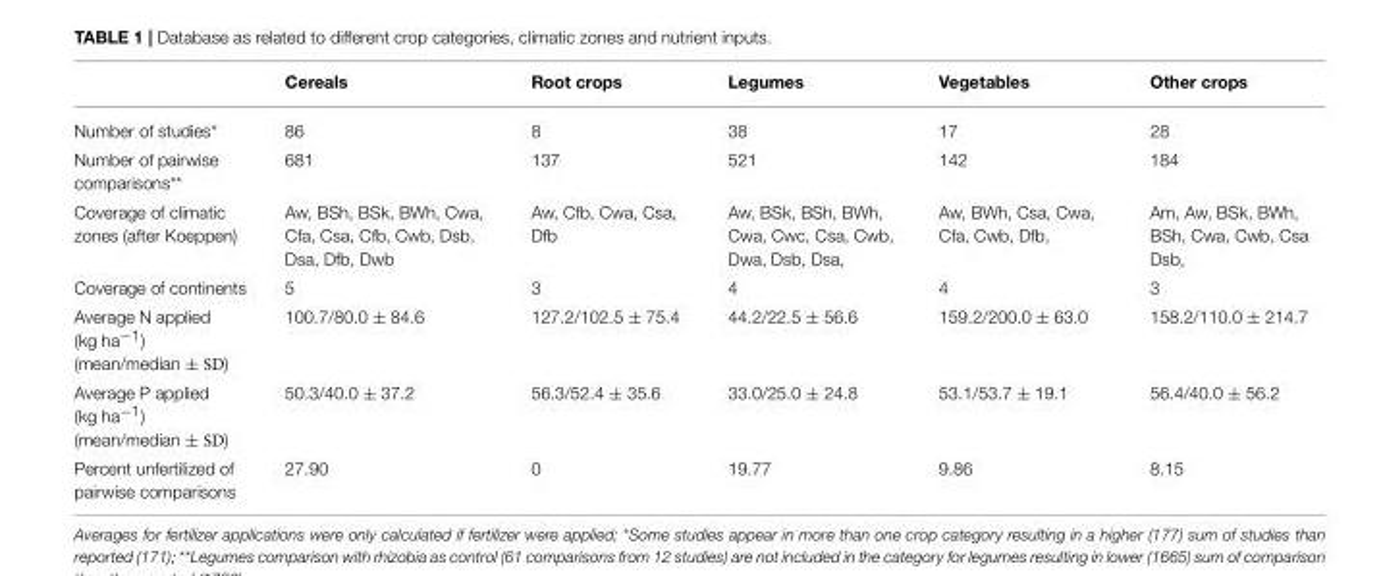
<table><thead><tr><td></td><td>Cereals</td><td>Root crops</td><td>Legumes</td><td>Vegetables</td><td>Other crops</td></tr></thead><tbody><tr><td>Number of studies*</td><td>86</td><td>8</td><td>38</td><td>17</td><td>28</td></tr><tr><td>Number of pairwise comparisons**</td><td>681</td><td>137</td><td>521</td><td>142</td><td>184</td></tr><tr><td>Coverage of climatic zones (after Koeppen)</td><td>Aw, BSh, BSk, BWh, Cwa, Cfa, Csa, Cfb, Cwb, Dsb, Dsa, Dfb, Dwb</td><td>Aw, Cfb, Cwa, Csa, Dfb</td><td>Aw, BSk, BSh, BWh, Cwa, Cwc, Csa, Cwb, Dwa, Dsb, Dsa,</td><td>Aw, BWh, Csa, Cwa, Cfa, Cwb, Dfb,</td><td>Am, Aw, BSk, BWh, BSh, Cwa, Cwb, Csa Dsb,</td></tr><tr><td>Coverage of continents</td><td>5</td><td>3</td><td>4</td><td>4</td><td>3</td></tr><tr><td>Average N applied (kg ha<sup>−1</sup>) (mean/median ± SD)</td><td>100.7/80.0 ± 84.6</td><td>127.2/102.5 ± 75.4</td><td>44.2/22.5 ± 56.6</td><td>159.2/200.0 ± 63.0</td><td>158.2/110.0 ± 214.7</td></tr><tr><td>Average P applied (kg ha<sup>−1</sup>) (mean/median ± SD)</td><td>50.3/40.0 ± 37.2</td><td>56.3/52.4 ± 35.6</td><td>33.0/25.0 ± 24.8</td><td>53.1/53.7 ± 19.1</td><td>56.4/40.0 ± 56.2</td></tr><tr><td>Percent unfertilized of pairwise comparisons</td><td>27.90</td><td>0</td><td>19.77</td><td>9.86</td><td>8.15</td></tr></tbody></table>